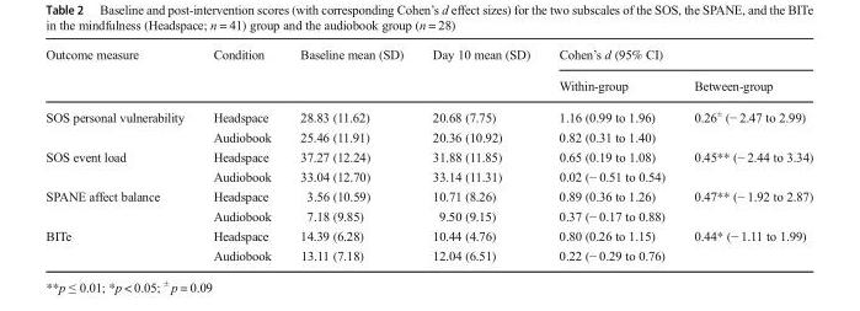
<table><thead><tr><td rowspan="2">Outcome measure</td><td rowspan="2">Condition</td><td rowspan="2">Baseline mean (SD)</td><td rowspan="2">Day 10 mean (SD)</td><td colspan="2">Cohen’s d (95% CI)</td></tr><tr><td>Within-group</td><td>Between-group</td></tr></thead><tbody><tr><td rowspan="2">SOS personal vulnerability</td><td>Headspace</td><td>28.83 (11.62)</td><td>20.68 (7.75)</td><td>1.16 (0.99 to 1.96)</td><td>0.26<sup>±</sup> (− 2.47 to 2.99)</td></tr><tr><td>Audiobook</td><td>25.46 (11.91)</td><td>20.36 (10.92)</td><td>0.82 (0.31 to 1.40)</td><td></td></tr><tr><td rowspan="2">SOS event load</td><td>Headspace</td><td>37.27 (12.24)</td><td>31.88 (11.85)</td><td>0.65 (0.19 to 1.08)</td><td>0.45** (− 2.44 to 3.34)</td></tr><tr><td>Audiobook</td><td>33.04 (12.70)</td><td>33.14 (11.31)</td><td>0.02 (− 0.51 to 0.54)</td><td></td></tr><tr><td rowspan="2">SPANE affect balance</td><td>Headspace</td><td>3.56 (10.59)</td><td>10.71 (8.26)</td><td>0.89 (0.36 to 1.26)</td><td>0.47** (− 1.92 to 2.87)</td></tr><tr><td>Audiobook</td><td>7.18 (9.85)</td><td>9.50 (9.15)</td><td>0.37 (− 0.17 to 0.88)</td><td></td></tr><tr><td rowspan="2">BITe</td><td>Headspace</td><td>14.39 (6.28)</td><td>10.44 (4.76)</td><td>0.80 (0.26 to 1.15)</td><td>0.44* (− 1.11 to 1.99)</td></tr><tr><td>Audiobook</td><td>13.11 (7.18)</td><td>12.04 (6.51)</td><td>0.22 (− 0.29 to 0.76)</td><td></td></tr></tbody></table>